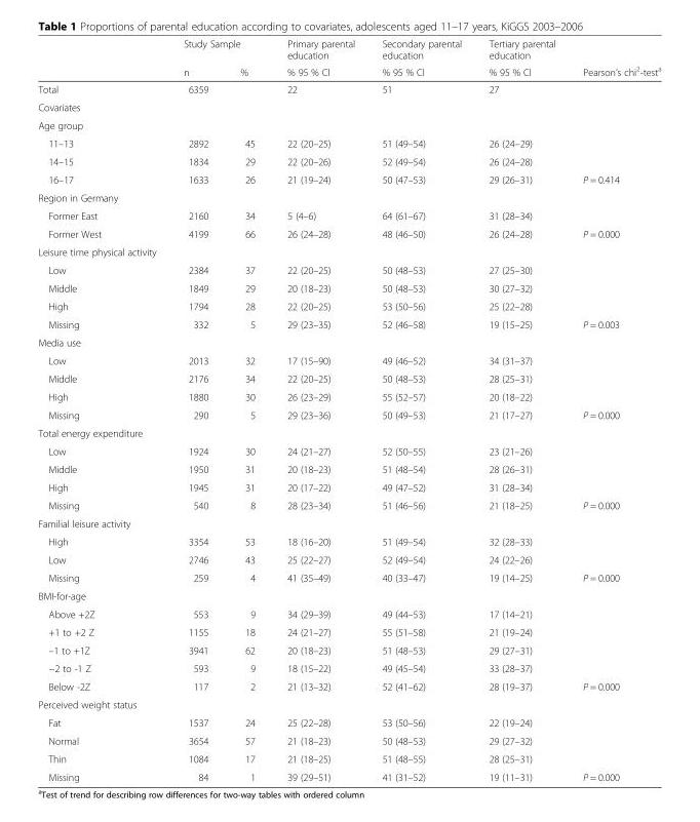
<table><thead><tr><td rowspan="2"></td><td colspan="2">Study Sample</td><td rowspan="2">Primary parental education % 95 % CI</td><td rowspan="2">Secondary parental education % 95 % CI</td><td rowspan="2">Tertiary parental education % 95 % CI</td><td rowspan="2">Pearson’s chi<sup>2</sup>-test<sup>a</sup></td></tr><tr><td>n</td><td>%</td></tr></thead><tbody><tr><td>Total</td><td>6359</td><td></td><td>22</td><td>51</td><td>27</td><td></td></tr><tr><td colspan="7">Covariates</td></tr><tr><td colspan="7">Age group</td></tr><tr><td>11–13</td><td>2892</td><td>45</td><td>22 (20–25)</td><td>51 (49–54)</td><td>26 (24–29)</td><td></td></tr><tr><td>14–15</td><td>1834</td><td>29</td><td>22 (20–26)</td><td>52 (49–54)</td><td>26 (24–28)</td><td></td></tr><tr><td>16–17</td><td>1633</td><td>26</td><td>21 (19–24)</td><td>50 (47–53)</td><td>29 (26–31)</td><td>P = 0.414</td></tr><tr><td colspan="7">Region in Germany</td></tr><tr><td>Former East</td><td>2160</td><td>34</td><td>5 (4–6)</td><td>64 (61–67)</td><td>31 (28–34)</td><td></td></tr><tr><td>Former West</td><td>4199</td><td>66</td><td>26 (24–28)</td><td>48 (46–50)</td><td>26 (24–28)</td><td>P = 0.000</td></tr><tr><td colspan="7">Leisure time physical activity</td></tr><tr><td>Low</td><td>2384</td><td>37</td><td>22 (20–25)</td><td>50 (48–53)</td><td>27 (25–30)</td><td></td></tr><tr><td>Middle</td><td>1849</td><td>29</td><td>20 (18–23)</td><td>50 (48–53)</td><td>30 (27–32)</td><td></td></tr><tr><td>High</td><td>1794</td><td>28</td><td>22 (20–25)</td><td>53 (50–56)</td><td>25 (22–28)</td><td></td></tr><tr><td>Missing</td><td>332</td><td>5</td><td>29 (23–35)</td><td>52 (46–58)</td><td>19 (15–25)</td><td>P = 0.003</td></tr><tr><td colspan="7">Media use</td></tr><tr><td>Low</td><td>2013</td><td>32</td><td>17 (15–90)</td><td>49 (46–52)</td><td>34 (31–37)</td><td></td></tr><tr><td>Middle</td><td>2176</td><td>34</td><td>22 (20–25)</td><td>50 (48–53)</td><td>28 (25–31)</td><td></td></tr><tr><td>High</td><td>1880</td><td>30</td><td>26 (23–29)</td><td>55 (52–57)</td><td>20 (18–22)</td><td></td></tr><tr><td>Missing</td><td>290</td><td>5</td><td>29 (23–36)</td><td>50 (49–53)</td><td>21 (17–27)</td><td>P = 0.000</td></tr><tr><td colspan="7">Total energy expenditure</td></tr><tr><td>Low</td><td>1924</td><td>30</td><td>24 (21–27)</td><td>52 (50–55)</td><td>23 (21–26)</td><td></td></tr><tr><td>Middle</td><td>1950</td><td>31</td><td>20 (18–23)</td><td>51 (48–54)</td><td>28 (26–31)</td><td></td></tr><tr><td>High</td><td>1945</td><td>31</td><td>20 (17–22)</td><td>49 (47–52)</td><td>31 (28–34)</td><td></td></tr><tr><td>Missing</td><td>540</td><td>8</td><td>28 (23–34)</td><td>51 (46–56)</td><td>21 (18–25)</td><td>P = 0.000</td></tr><tr><td colspan="7">Familial leisure activity</td></tr><tr><td>High</td><td>3354</td><td>53</td><td>18 (16–20)</td><td>51 (49–54)</td><td>32 (28–33)</td><td></td></tr><tr><td>Low</td><td>2746</td><td>43</td><td>25 (22–27)</td><td>52 (49–54)</td><td>24 (22–26)</td><td></td></tr><tr><td>Missing</td><td>259</td><td>4</td><td>41 (35–49)</td><td>40 (33–47)</td><td>19 (14–25)</td><td>P = 0.000</td></tr><tr><td colspan="7">BMI-for-age</td></tr><tr><td>Above +2Z</td><td>553</td><td>9</td><td>34 (29–39)</td><td>49 (44–53)</td><td>17 (14–21)</td><td></td></tr><tr><td>+1 to +2 Z</td><td>1155</td><td>18</td><td>24 (21–27)</td><td>55 (51–58)</td><td>21 (19–24)</td><td></td></tr><tr><td>–1 to +1Z</td><td>3941</td><td>62</td><td>20 (18–23)</td><td>51 (48–53)</td><td>29 (27–31)</td><td></td></tr><tr><td>−2 to -1 Z</td><td>593</td><td>9</td><td>18 (15–22)</td><td>49 (45–54)</td><td>33 (28–37)</td><td></td></tr><tr><td>Below -2Z</td><td>117</td><td>2</td><td>21 (13–32)</td><td>52 (41–62)</td><td>28 (19–37)</td><td>P = 0.000</td></tr><tr><td colspan="7">Perceived weight status</td></tr><tr><td>Fat</td><td>1537</td><td>24</td><td>25 (22–28)</td><td>53 (50–56)</td><td>22 (19–24)</td><td></td></tr><tr><td>Normal</td><td>3654</td><td>57</td><td>21 (18–23)</td><td>50 (48–53)</td><td>29 (27–32)</td><td></td></tr><tr><td>Thin</td><td>1084</td><td>17</td><td>21 (18–25)</td><td>51 (48–55)</td><td>28 (25–31)</td><td></td></tr><tr><td>Missing</td><td>84</td><td>1</td><td>39 (29–51)</td><td>41 (31–52)</td><td>19 (11–31)</td><td>P = 0.000</td></tr></tbody></table>